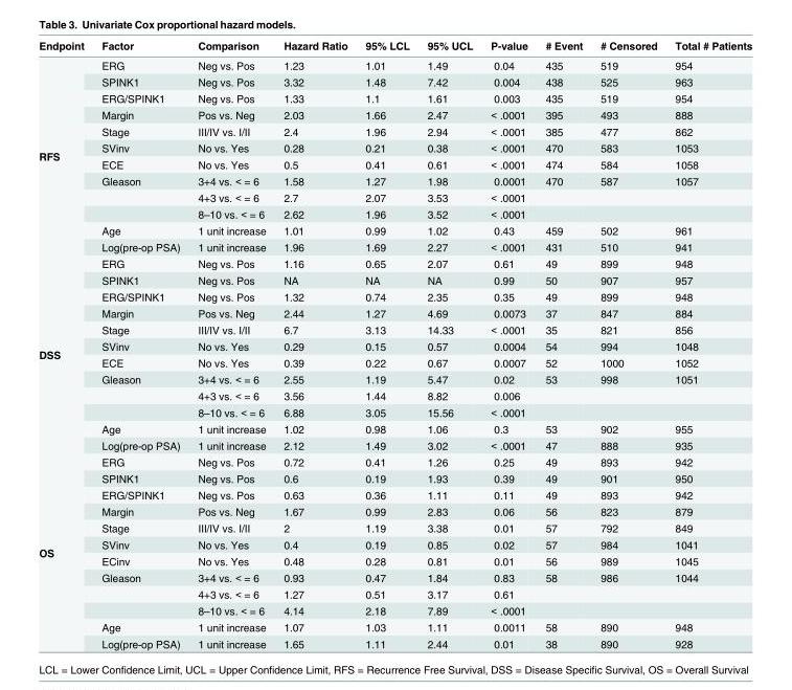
<table><thead><tr><td>Endpoint</td><td>Factor</td><td>Comparison</td><td>Hazard Ratio</td><td>95% LCL</td><td>95% UCL</td><td>P-value</td><td># Event</td><td># Censored</td><td>Total # Patients</td></tr></thead><tbody><tr><td rowspan="12">RFS</td><td>ERG</td><td>Neg vs. Pos</td><td>1.23</td><td>1.01</td><td>1.49</td><td>0.04</td><td>435</td><td>519</td><td>954</td></tr><tr><td>SPINK1</td><td>Neg vs. Pos</td><td>3.32</td><td>1.48</td><td>7.42</td><td>0.004</td><td>438</td><td>525</td><td>963</td></tr><tr><td>ERG/SPINK1</td><td>Neg vs. Pos</td><td>1.33</td><td>1.1</td><td>1.61</td><td>0.003</td><td>435</td><td>519</td><td>954</td></tr><tr><td>Margin</td><td>Pos vs. Neg</td><td>2.03</td><td>1.66</td><td>2.47</td><td>&lt; .0001</td><td>395</td><td>493</td><td>888</td></tr><tr><td>Stage</td><td>III/IV vs. I/II</td><td>2.4</td><td>1.96</td><td>2.94</td><td>&lt; .0001</td><td>385</td><td>477</td><td>862</td></tr><tr><td>SVinv</td><td>No vs. Yes</td><td>0.28</td><td>0.21</td><td>0.38</td><td>&lt; .0001</td><td>470</td><td>583</td><td>1053</td></tr><tr><td>ECE</td><td>No vs. Yes</td><td>0.5</td><td>0.41</td><td>0.61</td><td>&lt; .0001</td><td>474</td><td>584</td><td>1058</td></tr><tr><td>Gleason</td><td>3+4 vs. &lt; = 6</td><td>1.58</td><td>1.27</td><td>1.98</td><td>0.0001</td><td>470</td><td>587</td><td>1057</td></tr><tr><td></td><td>4+3 vs. &lt; = 6</td><td>2.7</td><td>2.07</td><td>3.53</td><td>&lt; .0001</td><td></td><td></td><td></td></tr><tr><td></td><td>8–10 vs. &lt; = 6</td><td>2.62</td><td>1.96</td><td>3.52</td><td>&lt; .0001</td><td></td><td></td><td></td></tr><tr><td>Age</td><td>1 unit increase</td><td>1.01</td><td>0.99</td><td>1.02</td><td>0.43</td><td>459</td><td>502</td><td>961</td></tr><tr><td>Log(pre-op PSA)</td><td>1 unit increase</td><td>1.96</td><td>1.69</td><td>2.27</td><td>&lt; .0001</td><td>431</td><td>510</td><td>941</td></tr><tr><td rowspan="12">DSS</td><td>ERG</td><td>Neg vs. Pos</td><td>1.16</td><td>0.65</td><td>2.07</td><td>0.61</td><td>49</td><td>899</td><td>948</td></tr><tr><td>SPINK1</td><td>Neg vs. Pos</td><td>NA</td><td>NA</td><td>NA</td><td>0.99</td><td>50</td><td>907</td><td>957</td></tr><tr><td>ERG/SPINK1</td><td>Neg vs. Pos</td><td>1.32</td><td>0.74</td><td>2.35</td><td>0.35</td><td>49</td><td>899</td><td>948</td></tr><tr><td>Margin</td><td>Pos vs. Neg</td><td>2.44</td><td>1.27</td><td>4.69</td><td>0.0073</td><td>37</td><td>847</td><td>884</td></tr><tr><td>Stage</td><td>III/IV vs. I/II</td><td>6.7</td><td>3.13</td><td>14.33</td><td>&lt; .0001</td><td>35</td><td>821</td><td>856</td></tr><tr><td>SVinv</td><td>No vs. Yes</td><td>0.29</td><td>0.15</td><td>0.57</td><td>0.0004</td><td>54</td><td>994</td><td>1048</td></tr><tr><td>ECE</td><td>No vs. Yes</td><td>0.39</td><td>0.22</td><td>0.67</td><td>0.0007</td><td>52</td><td>1000</td><td>1052</td></tr><tr><td>Gleason</td><td>3+4 vs. &lt; = 6</td><td>2.55</td><td>1.19</td><td>5.47</td><td>0.02</td><td>53</td><td>998</td><td>1051</td></tr><tr><td></td><td>4+3 vs. &lt; = 6</td><td>3.56</td><td>1.44</td><td>8.82</td><td>0.006</td><td></td><td></td><td></td></tr><tr><td></td><td>8–10 vs. &lt; = 6</td><td>6.88</td><td>3.05</td><td>15.56</td><td>&lt; .0001</td><td></td><td></td><td></td></tr><tr><td>Age</td><td>1 unit increase</td><td>1.02</td><td>0.98</td><td>1.06</td><td>0.3</td><td>53</td><td>902</td><td>955</td></tr><tr><td>Log(pre-op PSA)</td><td>1 unit increase</td><td>2.12</td><td>1.49</td><td>3.02</td><td>&lt; .0001</td><td>47</td><td>888</td><td>935</td></tr><tr><td rowspan="12">OS</td><td>ERG</td><td>Neg vs. Pos</td><td>0.72</td><td>0.41</td><td>1.26</td><td>0.25</td><td>49</td><td>893</td><td>942</td></tr><tr><td>SPINK1</td><td>Neg vs. Pos</td><td>0.6</td><td>0.19</td><td>1.93</td><td>0.39</td><td>49</td><td>901</td><td>950</td></tr><tr><td>ERG/SPINK1</td><td>Neg vs. Pos</td><td>0.63</td><td>0.36</td><td>1.11</td><td>0.11</td><td>49</td><td>893</td><td>942</td></tr><tr><td>Margin</td><td>Pos vs. Neg</td><td>1.67</td><td>0.99</td><td>2.83</td><td>0.06</td><td>56</td><td>823</td><td>879</td></tr><tr><td>Stage</td><td>III/IV vs. I/II</td><td>2</td><td>1.19</td><td>3.38</td><td>0.01</td><td>57</td><td>792</td><td>849</td></tr><tr><td>SVinv</td><td>No vs. Yes</td><td>0.4</td><td>0.19</td><td>0.85</td><td>0.02</td><td>57</td><td>984</td><td>1041</td></tr><tr><td>ECinv</td><td>No vs. Yes</td><td>0.48</td><td>0.28</td><td>0.81</td><td>0.01</td><td>56</td><td>989</td><td>1045</td></tr><tr><td>Gleason</td><td>3+4 vs. &lt; = 6</td><td>0.93</td><td>0.47</td><td>1.84</td><td>0.83</td><td>58</td><td>986</td><td>1044</td></tr><tr><td></td><td>4+3 vs. &lt; = 6</td><td>1.27</td><td>0.51</td><td>3.17</td><td>0.61</td><td></td><td></td><td></td></tr><tr><td></td><td>8–10 vs. &lt; = 6</td><td>4.14</td><td>2.18</td><td>7.89</td><td>&lt; .0001</td><td></td><td></td><td></td></tr><tr><td>Age</td><td>1 unit increase</td><td>1.07</td><td>1.03</td><td>1.11</td><td>0.0011</td><td>58</td><td>890</td><td>948</td></tr><tr><td>Log(pre-op PSA)</td><td>1 unit increase</td><td>1.65</td><td>1.11</td><td>2.44</td><td>0.01</td><td>38</td><td>890</td><td>928</td></tr></tbody></table>